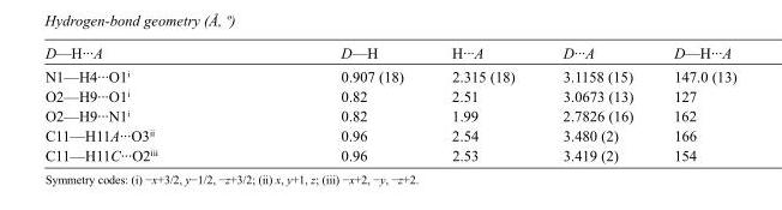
<table><tbody><tr><td>D—H···A</td><td>D—H</td><td>H···A</td><td>D···A</td><td>D—H···A</td></tr><tr><td>N1—H4···O1<sup>i</sup></td><td>0.907 (18)</td><td>2.315 (18)</td><td>3.1158 (15)</td><td>147.0 (13)</td></tr><tr><td>O2—H9···O1<sup>i</sup></td><td>0.82</td><td>2.51</td><td>3.0673 (13)</td><td>127</td></tr><tr><td>O2—H9···N1<sup>i</sup></td><td>0.82</td><td>1.99</td><td>2.7826 (16)</td><td>162</td></tr><tr><td>C11—H11A···O3<sup>ii</sup></td><td>0.96</td><td>2.54</td><td>3.480 (2)</td><td>166</td></tr><tr><td>C11—H11C···O2<sup>iii</sup></td><td>0.96</td><td>2.53</td><td>3.419 (2)</td><td>154</td></tr></tbody></table>